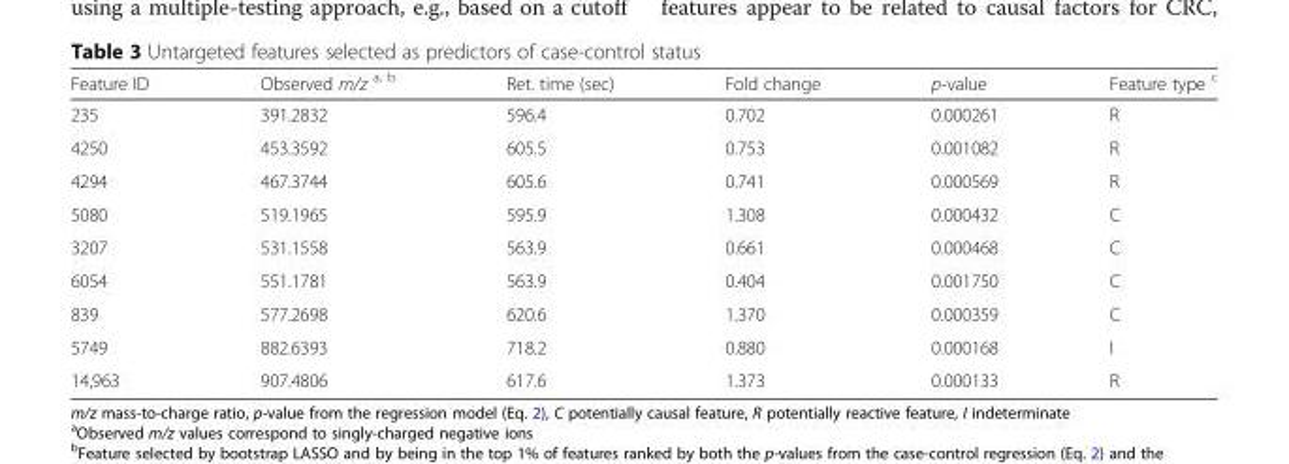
<table><thead><tr><td>Feature ID</td><td>Observed m/z <sup>a, b</sup></td><td>Ret. time (sec)</td><td>Fold change</td><td>p-value</td><td>Feature type <sup>c</sup></td></tr></thead><tbody><tr><td>235</td><td>391.2832</td><td>596.4</td><td>0.702</td><td>0.000261</td><td>R</td></tr><tr><td>4250</td><td>453.3592</td><td>605.5</td><td>0.753</td><td>0.001082</td><td>R</td></tr><tr><td>4294</td><td>467.3744</td><td>605.6</td><td>0.741</td><td>0.000569</td><td>R</td></tr><tr><td>5080</td><td>519.1965</td><td>595.9</td><td>1.308</td><td>0.000432</td><td>C</td></tr><tr><td>3207</td><td>531.1558</td><td>563.9</td><td>0.661</td><td>0.000468</td><td>C</td></tr><tr><td>6054</td><td>551.1781</td><td>563.9</td><td>0.404</td><td>0.001750</td><td>C</td></tr><tr><td>839</td><td>577.2698</td><td>620.6</td><td>1.370</td><td>0.000359</td><td>C</td></tr><tr><td>5749</td><td>882.6393</td><td>718.2</td><td>0.880</td><td>0.000168</td><td>I</td></tr><tr><td>14,963</td><td>907.4806</td><td>617.6</td><td>1.373</td><td>0.000133</td><td>R</td></tr></tbody></table>